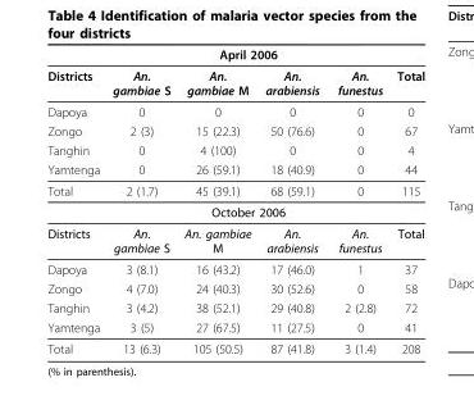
<table><thead><tr><td rowspan="2">Districts</td><td colspan="4">April 2006</td><td rowspan="2">Total</td></tr><tr><td>An. gambiae S</td><td>An. gambiae M</td><td>An. arabiensis</td><td>An. funestus</td></tr></thead><tbody><tr><td>Dapoya</td><td>0</td><td>0</td><td>0</td><td>0</td><td>0</td></tr><tr><td>Zongo</td><td>2 (3)</td><td>15 (22.3)</td><td>50 (76.6)</td><td>0</td><td>67</td></tr><tr><td>Tanghin</td><td>0</td><td>4 (100)</td><td>0</td><td>0</td><td>4</td></tr><tr><td>Yamtenga</td><td>0</td><td>26 (59.1)</td><td>18 (40.9)</td><td>0</td><td>44</td></tr><tr><td rowspan="2">Total</td><td>2 (1.7)</td><td>45 (39.1)</td><td>68 (59.1)</td><td>0</td><td>115</td></tr><tr><td colspan="4">October 2006</td><td></td></tr><tr><td>Districts</td><td>An. gambiae S</td><td>An. gambiae M</td><td>An. arabiensis</td><td>An. funestus</td><td>Total</td></tr><tr><td>Dapoya</td><td>3 (8.1)</td><td>16 (43.2)</td><td>17 (46.0)</td><td>1</td><td>37</td></tr><tr><td>Zongo</td><td>4 (7.0)</td><td>24 (40.3)</td><td>30 (52.6)</td><td>0</td><td>58</td></tr><tr><td>Tanghin</td><td>3 (4.2)</td><td>38 (52.1)</td><td>29 (40.8)</td><td>2 (2.8)</td><td>72</td></tr><tr><td>Yamtenga</td><td>3 (5)</td><td>27 (67.5)</td><td>11 (27.5)</td><td>0</td><td>41</td></tr><tr><td>Total</td><td>13 (6.3)</td><td>105 (50.5)</td><td>87 (41.8)</td><td>3 (1.4)</td><td>208</td></tr></tbody></table>